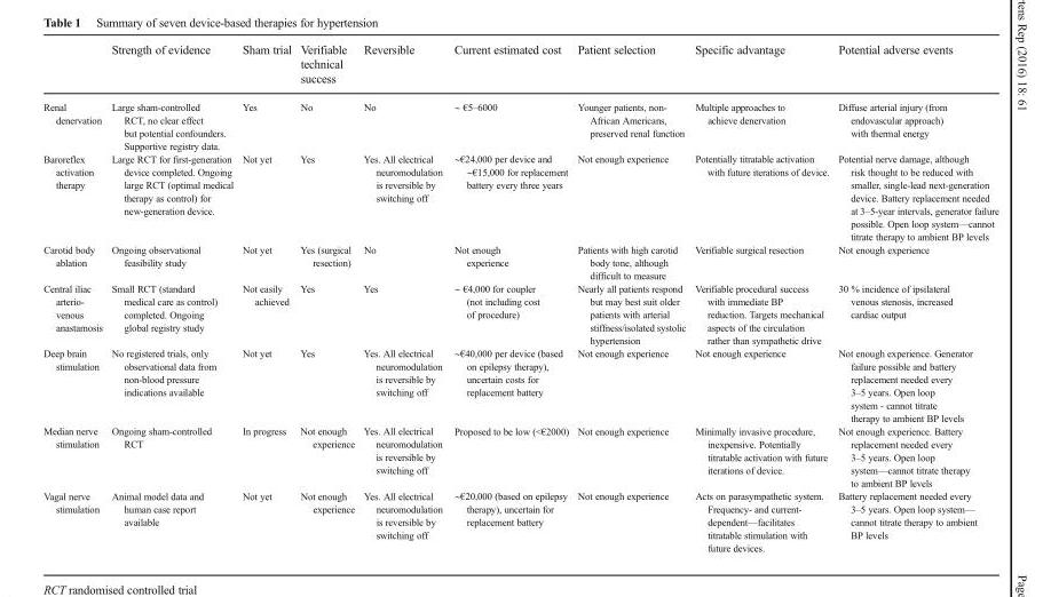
<table><thead><tr><td></td><td>Strength of evidence</td><td>Sham trial</td><td>Verifiable technical success</td><td>Reversible</td><td>Current estimated cost</td><td>Patient selection</td><td>Specific advantage</td><td>Potential adverse events</td></tr></thead><tbody><tr><td>Renal denervation</td><td>Large sham-controlled RCT, no clear effect but potential confounders. Supportive registry data.</td><td>Yes</td><td>No</td><td>No</td><td>∼ €5–6000</td><td>Younger patients, non- African Americans, preserved renal function</td><td>Multiple approaches to achieve denervation</td><td>Diffuse arterial injury (from endovascular approach) with thermal energy</td></tr><tr><td>Baroreflex activation therapy</td><td>Large RCT for first-generation device completed. Ongoing large RCT (optimal medical therapy as control) for new-generation device.</td><td>Not yet</td><td>Yes</td><td>Yes. All electrical neuromodulation is reversible by switching off</td><td>∼€24,000 per device and ∼€15,000 for replacement battery every three years</td><td>Not enough experience</td><td>Potentially titratable activation with future iterations of device.</td><td>Potential nerve damage, although risk thought to be reduced with smaller, single-lead next-generation device. Battery replacement needed at 3–5-year intervals, generator failure possible. Open loop system—cannot titrate therapy to ambient BP levels</td></tr><tr><td>Carotid body ablation</td><td>Ongoing observational feasibility study</td><td>Not yet</td><td>Yes (surgical resection)</td><td>No</td><td>Not enough experience</td><td>Patients with high carotid body tone, although difficult to measure</td><td>Verifiable surgical resection</td><td>Not enough experience</td></tr><tr><td>Central iliac arterio- venous anastamosis</td><td>Small RCT (standard medical care as control) completed. Ongoing global registry study</td><td>Not easily achieved</td><td>Yes</td><td>Yes</td><td>∼ €4,000 for coupler (not including cost of procedure)</td><td>Nearly all patients respond but may best suit older patients with arterial stiffness/isolated systolic hypertension</td><td>Verifiable procedural success with immediate BP reduction. Targets mechanical aspects of the circulation rather than sympathetic drive</td><td>30 % incidence of ipsilateral venous stenosis, increased cardiac output</td></tr><tr><td>Deep brain stimulation</td><td>No registered trials, only observational data from non-blood pressure indications available</td><td>Not yet</td><td>Yes</td><td>Yes. All electrical neuromodulation is reversible by switching off</td><td>∼€40,000 per device (based on epilepsy therapy), uncertain costs for replacement battery</td><td>Not enough experience</td><td>Not enough experience</td><td>Not enough experience. Generator failure possible and battery replacement needed every 3–5 years. Open loop system - cannot titrate therapy to ambient BP levels</td></tr><tr><td>Median nerve stimulation</td><td>Ongoing sham-controlled RCT</td><td>In progress</td><td>Not enough experience</td><td>Yes. All electrical neuromodulation is reversible by switching off</td><td>Proposed to be low (&lt;€2000)</td><td>Not enough experience</td><td>Minimally invasive procedure, inexpensive. Potentially titratable activation with future iterations of device.</td><td>Not enough experience. Battery replacement needed every 3–5 years. Open loop system—cannot titrate therapy to ambient BP levels</td></tr><tr><td>Vagal nerve stimulation</td><td>Animal model data and human case report available</td><td>Not yet</td><td>Not enough experience</td><td>Yes. All electrical neuromodulation is reversible by switching off</td><td>∼€20,000 (based on epilepsy therapy), uncertain for replacement battery</td><td>Not enough experience</td><td>Acts on parasympathetic system. Frequency- and current- dependent—facilitates titratable stimulation with future devices.</td><td>Battery replacement needed every 3–5 years. Open loop system— cannot titrate therapy to ambient BP levels</td></tr></tbody></table>